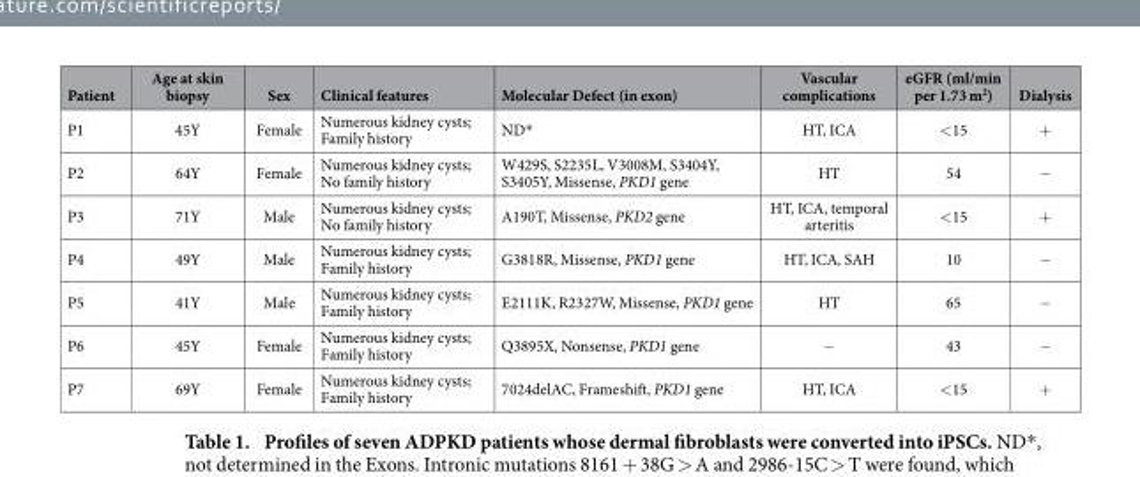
<table><thead><tr><td>Patient</td><td>Age at skin biopsy</td><td>Sex</td><td>Clinical features</td><td>Molecular Defect (in exon)</td><td>Vascular complications</td><td>eGFR (ml/min per 1.73 m<sup>2</sup>)</td><td>Dialysis</td></tr></thead><tbody><tr><td>P1</td><td>45Y</td><td>Female</td><td>Numerous kidney cysts; Family history</td><td>ND*</td><td>HT, ICA</td><td>&lt; 15</td><td>+</td></tr><tr><td>P2</td><td>64Y</td><td>Female</td><td>Numerous kidney cysts; No family history</td><td>W429S, S2235L, V3008M, S3404Y, S3405Y, Missense, PKD1 gene</td><td>HT</td><td>54</td><td>−</td></tr><tr><td>P3</td><td>71Y</td><td>Male</td><td>Numerous kidney cysts; No family history</td><td>A190T, Missense, PKD2 gene</td><td>HT, ICA, temporal arteritis</td><td>&lt; 15</td><td>+</td></tr><tr><td>P4</td><td>49Y</td><td>Male</td><td>Numerous kidney cysts; Family history</td><td>G3818R, Missense, PKD1 gene</td><td>HT, ICA, SAH</td><td>10</td><td>−</td></tr><tr><td>P5</td><td>41Y</td><td>Male</td><td>Numerous kidney cysts; Family history</td><td>E2111K, R2327W, Missense, PKD1 gene</td><td>HT</td><td>65</td><td>−</td></tr><tr><td>P6</td><td>45Y</td><td>Female</td><td>Numerous kidney cysts; Family history</td><td>Q3895X, Nonsense, PKD1 gene</td><td>−</td><td>43</td><td>−</td></tr><tr><td>P7</td><td>69Y</td><td>Female</td><td>Numerous kidney cysts; Family history</td><td>7024delAC, Frameshift, PKD1 gene</td><td>HT, ICA</td><td>&lt; 15</td><td>+</td></tr></tbody></table>